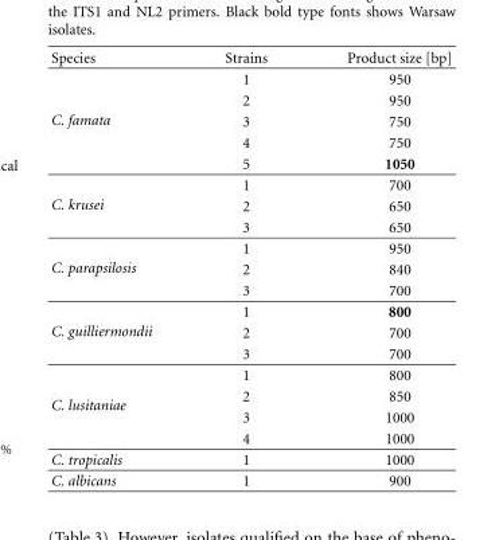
<table><thead><tr><td>Species</td><td>Strains</td><td>Product size [bp]</td></tr></thead><tbody><tr><td rowspan="5">C. famata</td><td>1</td><td>950</td></tr><tr><td>2</td><td>950</td></tr><tr><td>3</td><td>750</td></tr><tr><td>4</td><td>750</td></tr><tr><td>5</td><td>1050</td></tr><tr><td rowspan="3">C. krusei</td><td>1</td><td>700</td></tr><tr><td>2</td><td>650</td></tr><tr><td>3</td><td>650</td></tr><tr><td rowspan="3">C. parapsilosis</td><td>1</td><td>950</td></tr><tr><td>2</td><td>840</td></tr><tr><td>3</td><td>700</td></tr><tr><td rowspan="3">C. guilliermondii</td><td>1</td><td>800</td></tr><tr><td>2</td><td>700</td></tr><tr><td>3</td><td>700</td></tr><tr><td rowspan="4">C. lusitaniae</td><td>1</td><td>800</td></tr><tr><td>2</td><td>850</td></tr><tr><td>3</td><td>1000</td></tr><tr><td>4</td><td>1000</td></tr><tr><td>C. tropicalis</td><td>1</td><td>1000</td></tr><tr><td>C. albicans</td><td>1</td><td>900</td></tr></tbody></table>